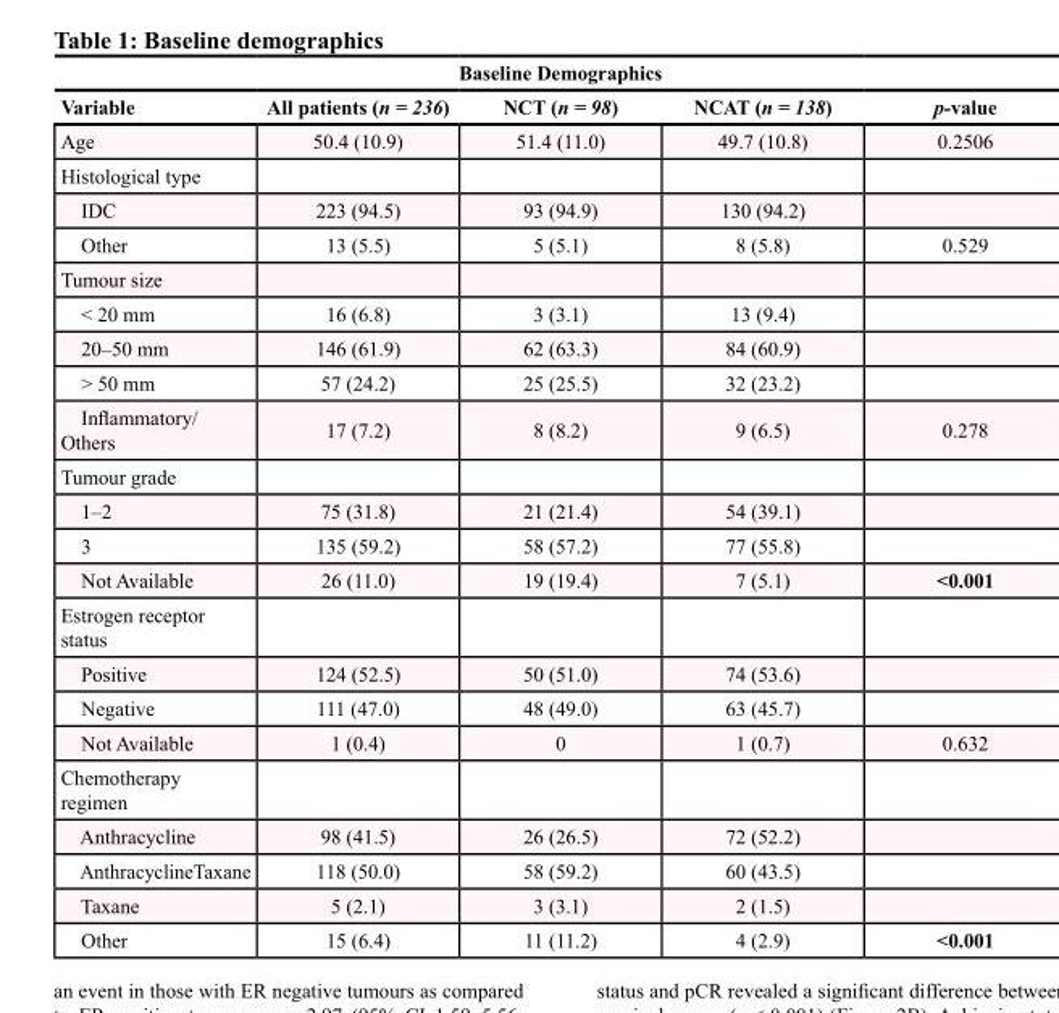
<table><thead><tr><td colspan="5">Baseline Demographics</td></tr><tr><td>Variable</td><td>All patients (n = 236)</td><td>NCT (n = 98)</td><td>NCAT (n = 138)</td><td>p-value</td></tr></thead><tbody><tr><td>Age</td><td>50.4 (10.9)</td><td>51.4 (11.0)</td><td>49.7 (10.8)</td><td>0.2506</td></tr><tr><td colspan="5">Histological type</td></tr><tr><td>IDC</td><td>223 (94.5)</td><td>93 (94.9)</td><td>130 (94.2)</td><td></td></tr><tr><td>Other</td><td>13 (5.5)</td><td>5 (5.1)</td><td>8 (5.8)</td><td>0.529</td></tr><tr><td colspan="5">Tumour size</td></tr><tr><td>&lt; 20 mm</td><td>16 (6.8)</td><td>3 (3.1)</td><td>13 (9.4)</td><td></td></tr><tr><td>20–50 mm</td><td>146 (61.9)</td><td>62 (63.3)</td><td>84 (60.9)</td><td></td></tr><tr><td>&gt; 50 mm</td><td>57 (24.2)</td><td>25 (25.5)</td><td>32 (23.2)</td><td></td></tr><tr><td>Inflammatory/ Others</td><td>17 (7.2)</td><td>8 (8.2)</td><td>9 (6.5)</td><td>0.278</td></tr><tr><td colspan="5">Tumour grade</td></tr><tr><td>1–2</td><td>75 (31.8)</td><td>21 (21.4)</td><td>54 (39.1)</td><td></td></tr><tr><td>3</td><td>135 (59.2)</td><td>58 (57.2)</td><td>77 (55.8)</td><td></td></tr><tr><td>Not Available</td><td>26 (11.0)</td><td>19 (19.4)</td><td>7 (5.1)</td><td>&lt;0.001</td></tr><tr><td colspan="5">Estrogen receptor status</td></tr><tr><td>Positive</td><td>124 (52.5)</td><td>50 (51.0)</td><td>74 (53.6)</td><td></td></tr><tr><td>Negative</td><td>111 (47.0)</td><td>48 (49.0)</td><td>63 (45.7)</td><td></td></tr><tr><td>Not Available</td><td>1 (0.4)</td><td>0</td><td>1 (0.7)</td><td>0.632</td></tr><tr><td colspan="5">Chemotherapy regimen</td></tr><tr><td>Anthracycline</td><td>98 (41.5)</td><td>26 (26.5)</td><td>72 (52.2)</td><td></td></tr><tr><td>AnthracyclineTaxane</td><td>118 (50.0)</td><td>58 (59.2)</td><td>60 (43.5)</td><td></td></tr><tr><td>Taxane</td><td>5 (2.1)</td><td>3 (3.1)</td><td>2 (1.5)</td><td></td></tr><tr><td>Other</td><td>15 (6.4)</td><td>11 (11.2)</td><td>4 (2.9)</td><td>&lt;0.001</td></tr></tbody></table>